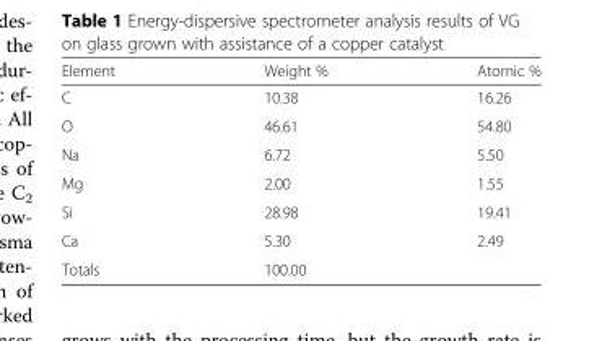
<table><thead><tr><td>Element</td><td>Weight %</td><td>Atomic %</td></tr></thead><tbody><tr><td>C</td><td>10.38</td><td>16.26</td></tr><tr><td>O</td><td>46.61</td><td>54.80</td></tr><tr><td>Na</td><td>6.72</td><td>5.50</td></tr><tr><td>Mg</td><td>2.00</td><td>1.55</td></tr><tr><td>Si</td><td>28.98</td><td>19.41</td></tr><tr><td>Ca</td><td>5.30</td><td>2.49</td></tr><tr><td>Totals</td><td>100.00</td><td></td></tr></tbody></table>